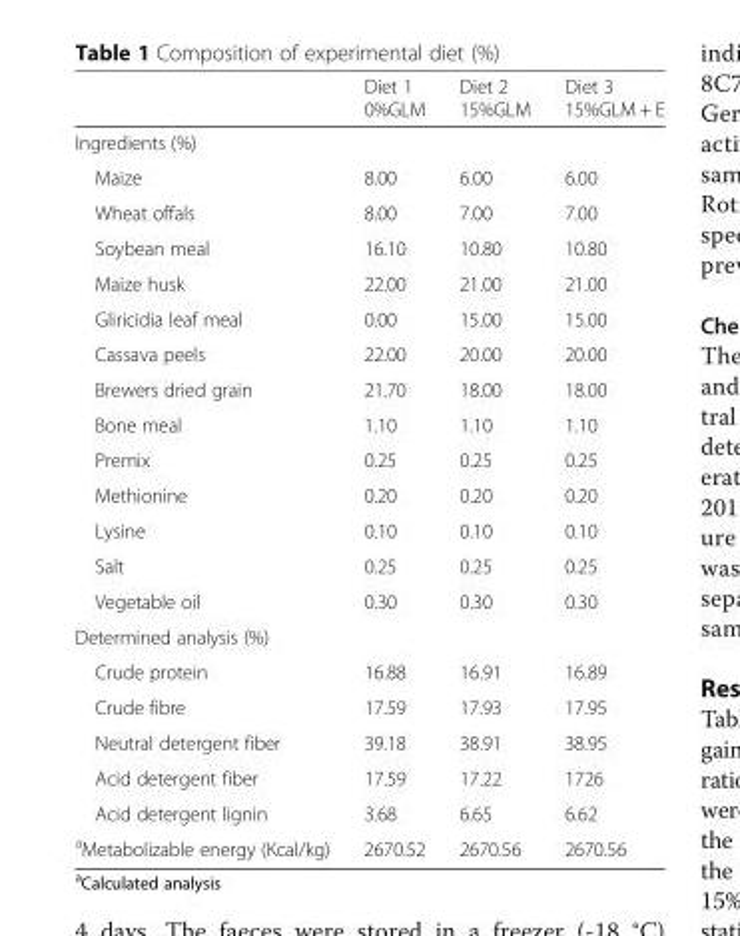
<table><thead><tr><td></td><td>Diet 1 0%GLM</td><td>Diet 2 15%GLM</td><td>Diet 3 15%GLM + E</td></tr></thead><tbody><tr><td colspan="4">Ingredients (%)</td></tr><tr><td>Maize</td><td>8.00</td><td>6.00</td><td>6.00</td></tr><tr><td>Wheat offals</td><td>8.00</td><td>7.00</td><td>7.00</td></tr><tr><td>Soybean meal</td><td>16.10</td><td>10.80</td><td>10.80</td></tr><tr><td>Maize husk</td><td>22.00</td><td>21.00</td><td>21.00</td></tr><tr><td>Gliricidia leaf meal</td><td>0.00</td><td>15.00</td><td>15.00</td></tr><tr><td>Cassava peels</td><td>22.00</td><td>20.00</td><td>20.00</td></tr><tr><td>Brewers dried grain</td><td>21.70</td><td>18.00</td><td>18.00</td></tr><tr><td>Bone meal</td><td>1.10</td><td>1.10</td><td>1.10</td></tr><tr><td>Premix</td><td>0.25</td><td>0.25</td><td>0.25</td></tr><tr><td>Methionine</td><td>0.20</td><td>0.20</td><td>0.20</td></tr><tr><td>Lysine</td><td>0.10</td><td>0.10</td><td>0.10</td></tr><tr><td>Salt</td><td>0.25</td><td>0.25</td><td>0.25</td></tr><tr><td>Vegetable oil</td><td>0.30</td><td>0.30</td><td>0.30</td></tr><tr><td colspan="4">Determined analysis (%)</td></tr><tr><td>Crude protein</td><td>16.88</td><td>16.91</td><td>16.89</td></tr><tr><td>Crude fibre</td><td>17.59</td><td>17.93</td><td>17.95</td></tr><tr><td>Neutral detergent fiber</td><td>39.18</td><td>38.91</td><td>38.95</td></tr><tr><td>Acid detergent fiber</td><td>17.59</td><td>17.22</td><td>1726</td></tr><tr><td>Acid detergent lignin</td><td>3.68</td><td>6.65</td><td>6.62</td></tr><tr><td><sup>a</sup>Metabolizable energy (Kcal/kg)</td><td>2670.52</td><td>2670.56</td><td>2670.56</td></tr></tbody></table>